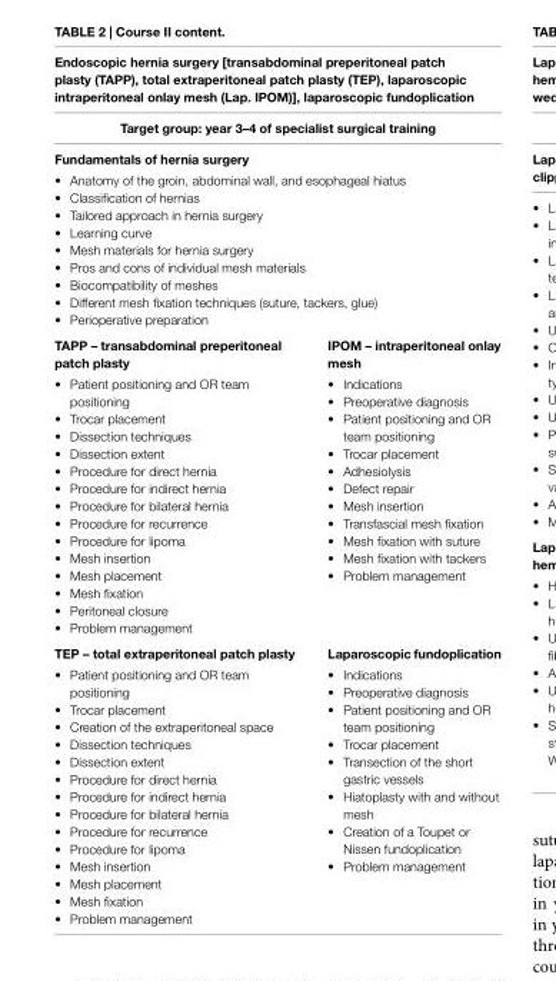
<table><thead><tr><td rowspan="4" colspan="2">endoscopic hernia surgery [transabdominal preperitoneal patch plasty (taPP), total extraperitoneal patch plasty (teP), laparoscopic intraperitoneal onlay mesh (lap. iPom)], laparoscopic fundoplication target group: year 3–4 of specialist surgical training Fundamentals of hernia surgery • Anatomy of the groin, abdominal wall, and esophageal hiatus • Classification of hernias • Tailored approach in hernia surgery • Learning curve • Mesh materials for hernia surgery • Pros and cons of individual mesh materials • Biocompatibility of meshes • Different mesh fixation techniques (suture, tackers, glue) • Perioperative preparation</td></tr><tr></tr><tr></tr><tr></tr><tr><td>taPP – transabdominal preperitoneal patch plasty</td><td>iPom – intraperitoneal onlay mesh</td></tr></thead><tbody><tr><td>• Patient positioning and OR team positioning • Trocar placement • Dissection techniques • Dissection extent • Procedure for direct hernia • Procedure for indirect hernia • Procedure for bilateral hernia • Procedure for recurrence • Procedure for lipoma • Mesh insertion • Mesh placement • Mesh fixation • Peritoneal closure • Problem management</td><td>• Indications • Preoperative diagnosis • Patient positioning and OR team positioning • Trocar placement • Adhesiolysis • Defect repair • Mesh insertion • Transfascial mesh fixation • Mesh fixation with suture • Mesh fixation with tackers • Problem management</td></tr><tr><td>teP – total extraperitoneal patch plasty</td><td>laparoscopic fundoplication</td></tr><tr><td>• Patient positioning and OR team positioning • Trocar placement • Creation of the extraperitoneal space • Dissection techniques • Dissection extent • Procedure for direct hernia • Procedure for indirect hernia • Procedure for bilateral hernia • Procedure for recurrence • Procedure for lipoma • Mesh insertion • Mesh placement • Mesh fixation • Problem management</td><td>• Indications • Preoperative diagnosis • Patient positioning and OR team positioning • Trocar placement • Transection of the short gastric vessels • Hiatoplasty with and without mesh • Creation of a Toupet or Nissen fundoplication • Problem management</td></tr></tbody></table>